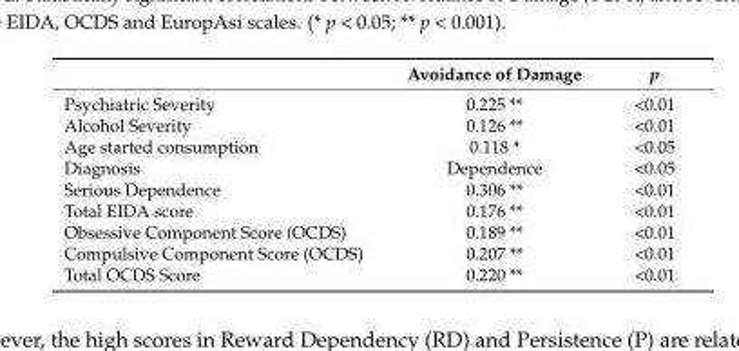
<table><thead><tr><td></td><td>Avoidance of Damage</td><td>p</td></tr></thead><tbody><tr><td>Psychiatric Severity</td><td>0.225 **</td><td>&lt;0.01</td></tr><tr><td>Alcohol Severity</td><td>0.126 **</td><td>&lt;0.01</td></tr><tr><td>Age started consumption</td><td>0.118 *</td><td>&lt;0.05</td></tr><tr><td>Diagnosis</td><td>Dependence</td><td>&lt;0.05</td></tr><tr><td>Serious Dependence</td><td>0.306 **</td><td>&lt;0.01</td></tr><tr><td>Total EIDA score</td><td>0.176 **</td><td>&lt;0.01</td></tr><tr><td>Obsessive Component Score (OCDS)</td><td>0.189 **</td><td>&lt;0.01</td></tr><tr><td>Compulsive Component Score (OCDS)</td><td>0.207 **</td><td>&lt;0.01</td></tr><tr><td>Total OCDS Score</td><td>0.220 **</td><td>&lt;0.01</td></tr></tbody></table>